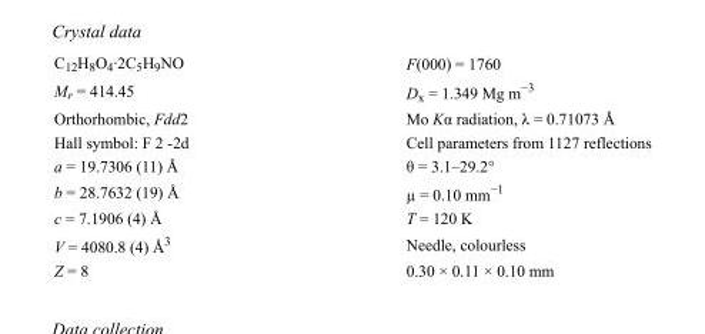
<table><tbody><tr><td>C<sub>12</sub>H<sub>8</sub>O<sub>4</sub>·2C<sub>5</sub>H<sub>9</sub>NO</td><td>F(000) = 1760</td></tr><tr><td>M<sub>r</sub> = 414.45</td><td>D<sub>x</sub> = 1.349 Mg m<sup>−3</sup></td></tr><tr><td>Orthorhombic, Fdd2</td><td>Mo Kα radiation, λ = 0.71073 Å</td></tr><tr><td>Hall symbol: F 2 -2d</td><td>Cell parameters from 1127 reflections</td></tr><tr><td>a = 19.7306 (11) Å</td><td>θ = 3.1–29.2°</td></tr><tr><td>b = 28.7632 (19) Å</td><td>µ = 0.10 mm<sup>−1</sup></td></tr><tr><td>c = 7.1906 (4) Å</td><td>T = 120 K</td></tr><tr><td>V = 4080.8 (4) Å<sup>3</sup></td><td>Needle, colourless</td></tr><tr><td>Z = 8</td><td>0.30 × 0.11 × 0.10 mm</td></tr></tbody></table>